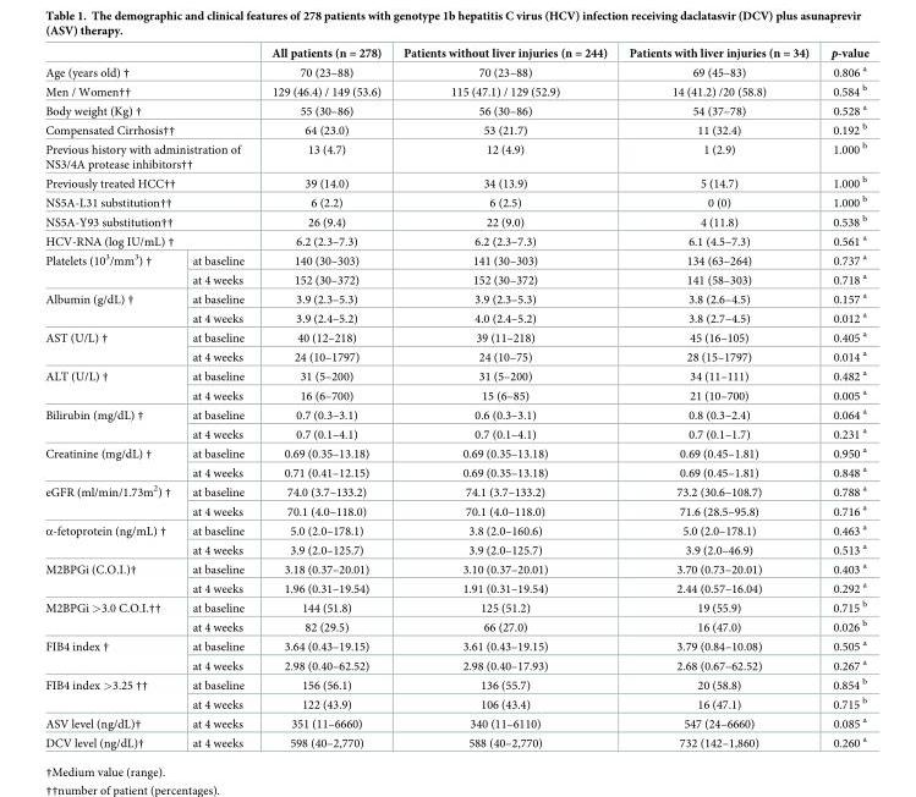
<table><thead><tr><td></td><td></td><td>All patients (n = 278)</td><td>Patients without liver injuries (n = 244)</td><td>Patients with liver injuries (n = 34)</td><td>p-value</td></tr></thead><tbody><tr><td colspan="2">Age (years old) †</td><td>70 (23–88)</td><td>70 (23–88)</td><td>69 (45–83)</td><td>0.806 <sup>a</sup></td></tr><tr><td colspan="2">Men / Women††</td><td>129 (46.4) / 149 (53.6)</td><td>115 (47.1) / 129 (52.9)</td><td>14 (41.2) /20 (58.8)</td><td>0.584 <sup>b</sup></td></tr><tr><td colspan="2">Body weight (Kg) †</td><td>55 (30–86)</td><td>56 (30–86)</td><td>54 (37–78)</td><td>0.528 <sup>a</sup></td></tr><tr><td colspan="2">Compensated Cirrhosis††</td><td>64 (23.0)</td><td>53 (21.7)</td><td>11 (32.4)</td><td>0.192 <sup>b</sup></td></tr><tr><td colspan="2">Previous history with administration of NS3/4A protease inhibitors††</td><td>13 (4.7)</td><td>12 (4.9)</td><td>1 (2.9)</td><td>1.000 <sup>b</sup></td></tr><tr><td colspan="2">Previously treated HCC††</td><td>39 (14.0)</td><td>34 (13.9)</td><td>5 (14.7)</td><td>1.000 <sup>b</sup></td></tr><tr><td colspan="2">NS5A-L31 substitution††</td><td>6 (2.2)</td><td>6 (2.5)</td><td>0 (0)</td><td>1.000 <sup>b</sup></td></tr><tr><td colspan="2">NS5A-Y93 substitution††</td><td>26 (9.4)</td><td>22 (9.0)</td><td>4 (11.8)</td><td>0.538 <sup>b</sup></td></tr><tr><td colspan="2">HCV-RNA (log IU/mL) †</td><td>6.2 (2.3–7.3)</td><td>6.2 (2.3–7.3)</td><td>6.1 (4.5–7.3)</td><td>0.561 <sup>a</sup></td></tr><tr><td rowspan="2">Platelets (10<sup>3</sup>/mm<sup>3</sup>) †</td><td>at baseline</td><td>140 (30–303)</td><td>141 (30–303)</td><td>134 (63–264)</td><td>0.737 <sup>a</sup></td></tr><tr><td>at 4 weeks</td><td>152 (30–372)</td><td>152 (30–372)</td><td>141 (58–303)</td><td>0.718 <sup>a</sup></td></tr><tr><td rowspan="2">Albumin (g/dL) †</td><td>at baseline</td><td>3.9 (2.3–5.3)</td><td>3.9 (2.3–5.3)</td><td>3.8 (2.6–4.5)</td><td>0.157 <sup>a</sup></td></tr><tr><td>at 4 weeks</td><td>3.9 (2.4–5.2)</td><td>4.0 (2.4–5.2)</td><td>3.8 (2.7–4.5)</td><td>0.012 <sup>a</sup></td></tr><tr><td rowspan="2">AST (U/L) †</td><td>at baseline</td><td>40 (12–218)</td><td>39 (11–218)</td><td>45 (16–105)</td><td>0.405 <sup>a</sup></td></tr><tr><td>at 4 weeks</td><td>24 (10–1797)</td><td>24 (10–75)</td><td>28 (15–1797)</td><td>0.014 <sup>a</sup></td></tr><tr><td rowspan="2">ALT (U/L) †</td><td>at baseline</td><td>31 (5–200)</td><td>31 (5–200)</td><td>34 (11–111)</td><td>0.482 <sup>a</sup></td></tr><tr><td>at 4 weeks</td><td>16 (6–700)</td><td>15 (6–85)</td><td>21 (10–700)</td><td>0.005 <sup>a</sup></td></tr><tr><td rowspan="2">Bilirubin (mg/dL) †</td><td>at baseline</td><td>0.7 (0.3–3.1)</td><td>0.6 (0.3–3.1)</td><td>0.8 (0.3–2.4)</td><td>0.064 <sup>a</sup></td></tr><tr><td>at 4 weeks</td><td>0.7 (0.1–4.1)</td><td>0.7 (0.1–4.1)</td><td>0.7 (0.1–1.7)</td><td>0.231 <sup>a</sup></td></tr><tr><td rowspan="2">Creatinine (mg/dL) †</td><td>at baseline</td><td>0.69 (0.35–13.18)</td><td>0.69 (0.35–13.18)</td><td>0.69 (0.45–1.81)</td><td>0.950 <sup>a</sup></td></tr><tr><td>at 4 weeks</td><td>0.71 (0.41–12.15)</td><td>0.69 (0.35–13.18)</td><td>0.69 (0.45–1.81)</td><td>0.848 <sup>a</sup></td></tr><tr><td rowspan="2">eGFR (ml/min/1.73m<sup>2</sup>) †</td><td>at baseline</td><td>74.0 (3.7–133.2)</td><td>74.1 (3.7–133.2)</td><td>73.2 (30.6–108.7)</td><td>0.788 <sup>a</sup></td></tr><tr><td>at 4 weeks</td><td>70.1 (4.0–118.0)</td><td>70.1 (4.0–118.0)</td><td>71.6 (28.5–95.8)</td><td>0.716 <sup>a</sup></td></tr><tr><td rowspan="2">α-fetoprotein (ng/mL) †</td><td>at baseline</td><td>5.0 (2.0–178.1)</td><td>3.8 (2.0–160.6)</td><td>5.0 (2.0–178.1)</td><td>0.463 <sup>a</sup></td></tr><tr><td>at 4 weeks</td><td>3.9 (2.0–125.7)</td><td>3.9 (2.0–125.7)</td><td>3.9 (2.0–46.9)</td><td>0.513 <sup>a</sup></td></tr><tr><td rowspan="2">M2BPGi (C.O.I.)†</td><td>at baseline</td><td>3.18 (0.37–20.01)</td><td>3.10 (0.37–20.01)</td><td>3.70 (0.73–20.01)</td><td>0.403 <sup>a</sup></td></tr><tr><td>at 4 weeks</td><td>1.96 (0.31–19.54)</td><td>1.91 (0.31–19.54)</td><td>2.44 (0.57–16.04)</td><td>0.292 <sup>a</sup></td></tr><tr><td rowspan="2">M2BPGi &gt;3.0 C.O.I.††</td><td>at baseline</td><td>144 (51.8)</td><td>125 (51.2)</td><td>19 (55.9)</td><td>0.715 <sup>b</sup></td></tr><tr><td>at 4 weeks</td><td>82 (29.5)</td><td>66 (27.0)</td><td>16 (47.0)</td><td>0.026 <sup>b</sup></td></tr><tr><td rowspan="2">FIB4 index †</td><td>at baseline</td><td>3.64 (0.43–19.15)</td><td>3.61 (0.43–19.15)</td><td>3.79 (0.84–10.08)</td><td>0.505 <sup>a</sup></td></tr><tr><td>at 4 weeks</td><td>2.98 (0.40–62.52)</td><td>2.98 (0.40–17.93)</td><td>2.68 (0.67–62.52)</td><td>0.267 <sup>a</sup></td></tr><tr><td rowspan="2">FIB4 index &gt;3.25 ††</td><td>at baseline</td><td>156 (56.1)</td><td>136 (55.7)</td><td>20 (58.8)</td><td>0.854 <sup>b</sup></td></tr><tr><td>at 4 weeks</td><td>122 (43.9)</td><td>106 (43.4)</td><td>16 (47.1)</td><td>0.715 <sup>b</sup></td></tr><tr><td>ASV level (ng/dL)†</td><td>at 4 weeks</td><td>351 (11–6660)</td><td>340 (11–6110)</td><td>547 (24–6660)</td><td>0.085 <sup>a</sup></td></tr><tr><td>DCV level (ng/dL)†</td><td>at 4 weeks</td><td>598 (40–2,770)</td><td>588 (40–2,770)</td><td>732 (142–1,860)</td><td>0.260 <sup>a</sup></td></tr></tbody></table>